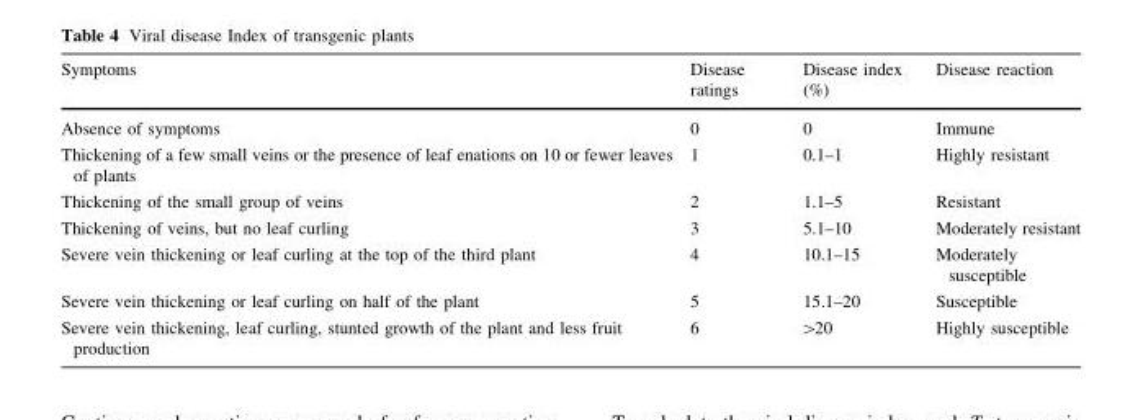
<table><thead><tr><td>Symptoms</td><td>Disease ratings</td><td>Disease index (%)</td><td>Disease reaction</td></tr></thead><tbody><tr><td>Absence of symptoms</td><td>0</td><td>0</td><td>Immune</td></tr><tr><td>Thickening of a few small veins or the presence of leaf enations on 10 or fewer leaves of plants</td><td>1</td><td>0.1–1</td><td>Highly resistant</td></tr><tr><td>Thickening of the small group of veins</td><td>2</td><td>1.1–5</td><td>Resistant</td></tr><tr><td>Thickening of veins, but no leaf curling</td><td>3</td><td>5.1–10</td><td>Moderately resistant</td></tr><tr><td>Severe vein thickening or leaf curling at the top of the third plant</td><td>4</td><td>10.1–15</td><td>Moderately susceptible</td></tr><tr><td>Severe vein thickening or leaf curling on half of the plant</td><td>5</td><td>15.1–20</td><td>Susceptible</td></tr><tr><td>Severe vein thickening, leaf curling, stunted growth of the plant and less fruit production</td><td>6</td><td>&gt;20</td><td>Highly susceptible</td></tr></tbody></table>